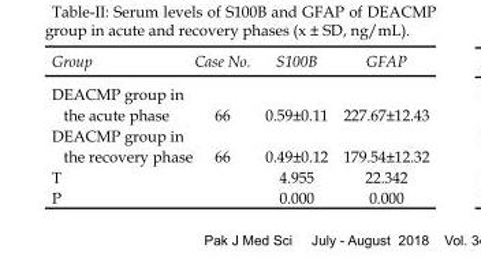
<table><thead><tr><td>Group</td><td>Case No.</td><td>S100B</td><td>GFAP</td></tr></thead><tbody><tr><td>DEACMP group in the acute phase</td><td>66</td><td>0.59±0.11</td><td>227.67±12.43</td></tr><tr><td>DEACMP group in the recovery phase</td><td>66</td><td>0.49±0.12</td><td>179.54±12.32</td></tr><tr><td>T</td><td></td><td>4.955</td><td>22.342</td></tr><tr><td>P</td><td></td><td>0.000</td><td>0.000</td></tr></tbody></table>